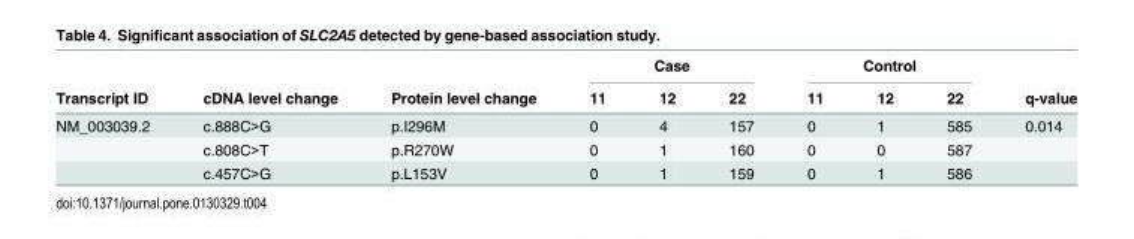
<table><thead><tr><td rowspan="2">Transcript ID</td><td rowspan="2">cDNA level change</td><td rowspan="2">Protein level change</td><td colspan="3">Case</td><td colspan="3">Control</td><td rowspan="2">q-value</td></tr><tr><td>11</td><td>12</td><td>22</td><td>11</td><td>12</td><td>22</td></tr></thead><tbody><tr><td rowspan="3">NM_003039.2</td><td>c.888C&gt;G</td><td>p.I296M</td><td>0</td><td>4</td><td>157</td><td>0</td><td>1</td><td>585</td><td>0.014</td></tr><tr><td>c.808C&gt;T</td><td>p.R270W</td><td>0</td><td>1</td><td>160</td><td>0</td><td>0</td><td>587</td><td></td></tr><tr><td>c.457C&gt;G</td><td>p.L153V</td><td>0</td><td>1</td><td>159</td><td>0</td><td>1</td><td>586</td><td></td></tr></tbody></table>